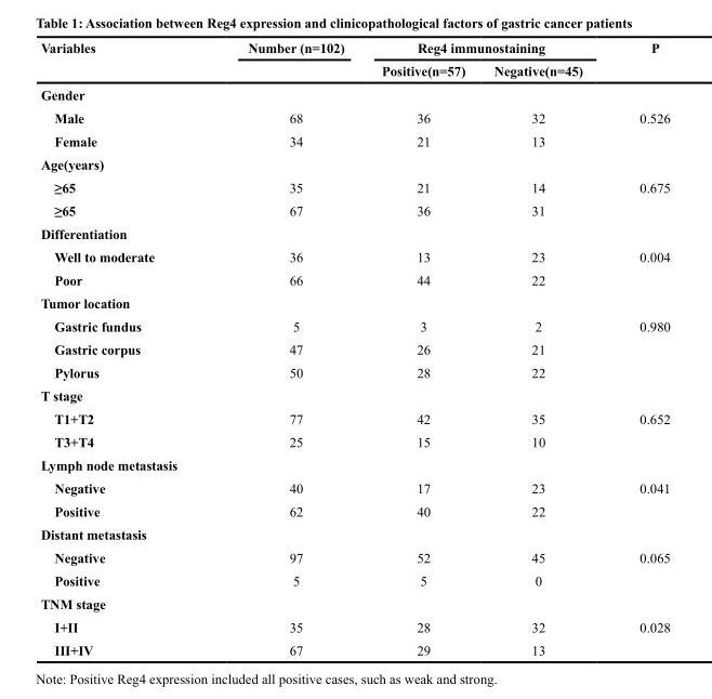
<table><thead><tr><td rowspan="2">Variables</td><td rowspan="2">Number (n=102)</td><td colspan="2">Reg4 immunostaining</td><td rowspan="2">P</td></tr><tr><td>Positive(n=57)</td><td>Negative(n=45)</td></tr></thead><tbody><tr><td colspan="5">Gender</td></tr><tr><td>Male</td><td>68</td><td>36</td><td>32</td><td>0.526</td></tr><tr><td>Female</td><td>34</td><td>21</td><td>13</td><td></td></tr><tr><td colspan="5">Age(years)</td></tr><tr><td>≥65</td><td>35</td><td>21</td><td>14</td><td>0.675</td></tr><tr><td>≥65</td><td>67</td><td>36</td><td>31</td><td></td></tr><tr><td colspan="5">Differentiation</td></tr><tr><td>Well to moderate</td><td>36</td><td>13</td><td>23</td><td>0.004</td></tr><tr><td>Poor</td><td>66</td><td>44</td><td>22</td><td></td></tr><tr><td colspan="5">Tumor location</td></tr><tr><td>Gastric fundus</td><td>5</td><td>3</td><td>2</td><td>0.980</td></tr><tr><td>Gastric corpus</td><td>47</td><td>26</td><td>21</td><td></td></tr><tr><td>Pylorus</td><td>50</td><td>28</td><td>22</td><td></td></tr><tr><td colspan="5">T stage</td></tr><tr><td>T1+T2</td><td>77</td><td>42</td><td>35</td><td>0.652</td></tr><tr><td>T3+T4</td><td>25</td><td>15</td><td>10</td><td></td></tr><tr><td colspan="5">Lymph node metastasis</td></tr><tr><td>Negative</td><td>40</td><td>17</td><td>23</td><td>0.041</td></tr><tr><td>Positive</td><td>62</td><td>40</td><td>22</td><td></td></tr><tr><td colspan="5">Distant metastasis</td></tr><tr><td>Negative</td><td>97</td><td>52</td><td>45</td><td>0.065</td></tr><tr><td>Positive</td><td>5</td><td>5</td><td>0</td><td></td></tr><tr><td colspan="5">TNM stage</td></tr><tr><td>I+II</td><td>35</td><td>28</td><td>32</td><td>0.028</td></tr><tr><td>III+IV</td><td>67</td><td>29</td><td>13</td><td></td></tr></tbody></table>